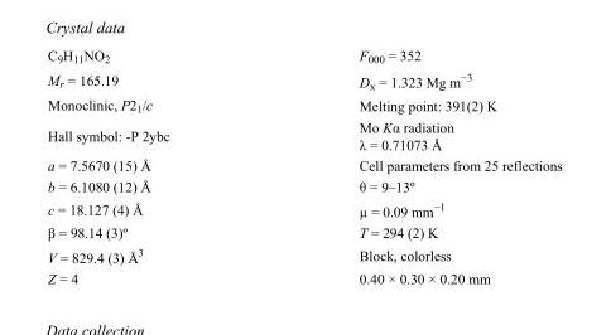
<table><tbody><tr><td>C<sub>9</sub>H<sub>11</sub>NO<sub>2</sub></td><td>F<sub>000</sub> = 352</td></tr><tr><td>M<sub>r</sub> = 165.19</td><td>D<sub>x</sub> = 1.323 Mg m<sup>−3</sup></td></tr><tr><td>Monoclinic, P2<sub>1</sub>/c</td><td>Melting point: 391(2) K</td></tr><tr><td>Hall symbol: -P 2ybc</td><td>Mo Kα radiation λ = 0.71073 Å</td></tr><tr><td>a = 7.5670 (15) Å</td><td>Cell parameters from 25 reflections</td></tr><tr><td>b = 6.1080 (12) Å</td><td>θ = 9–13º</td></tr><tr><td>c = 18.127 (4) Å</td><td>µ = 0.09 mm<sup>−1</sup></td></tr><tr><td>β = 98.14 (3)º</td><td>T = 294 (2) K</td></tr><tr><td>V = 829.4 (3) Å<sup>3</sup></td><td>Block, colorless</td></tr><tr><td>Z = 4</td><td>0.40 × 0.30 × 0.20 mm</td></tr></tbody></table>